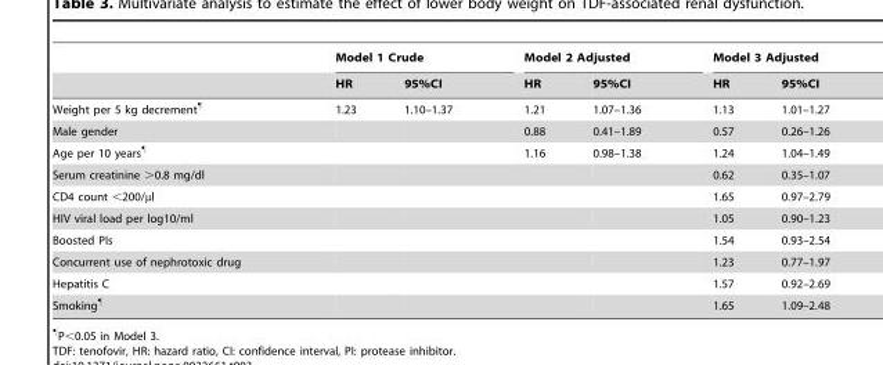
<table><thead><tr><td rowspan="2"></td><td colspan="2">Model 1 Crude</td><td colspan="2">Model 2 Adjusted</td><td colspan="2">Model 3 Adjusted</td></tr><tr><td>HR</td><td>95%CI</td><td>HR</td><td>95%CI</td><td>HR</td><td>95%CI</td></tr></thead><tbody><tr><td>Weight per 5 kg decrement¶</td><td>1.23</td><td>1.10–1.37</td><td>1.21</td><td>1.07–1.36</td><td>1.13</td><td>1.01–1.27</td></tr><tr><td>Male gender</td><td></td><td></td><td>0.88</td><td>0.41–1.89</td><td>0.57</td><td>0.26–1.26</td></tr><tr><td>Age per 10 years¶</td><td></td><td></td><td>1.16</td><td>0.98–1.38</td><td>1.24</td><td>1.04–1.49</td></tr><tr><td>Serum creatinine &gt;0.8 mg/dl</td><td></td><td></td><td></td><td></td><td>0.62</td><td>0.35–1.07</td></tr><tr><td>CD4 count &lt;200/µl</td><td></td><td></td><td></td><td></td><td>1.65</td><td>0.97–2.79</td></tr><tr><td>HIV viral load per log10/ml</td><td></td><td></td><td></td><td></td><td>1.05</td><td>0.90–1.23</td></tr><tr><td>Boosted PIs</td><td></td><td></td><td></td><td></td><td>1.54</td><td>0.93–2.54</td></tr><tr><td>Concurrent use of nephrotoxic drug</td><td></td><td></td><td></td><td></td><td>1.23</td><td>0.77–1.97</td></tr><tr><td>Hepatitis C</td><td></td><td></td><td></td><td></td><td>1.57</td><td>0.92–2.69</td></tr><tr><td>Smoking¶</td><td></td><td></td><td></td><td></td><td>1.65</td><td>1.09–2.48</td></tr></tbody></table>